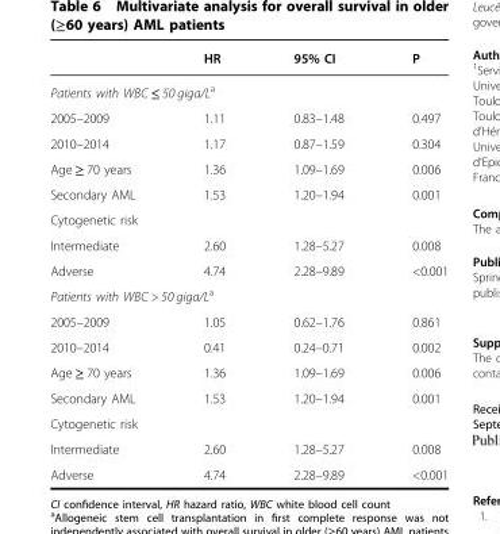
<table><thead><tr><td></td><td>HR</td><td>95% CI</td><td>P</td></tr></thead><tbody><tr><td colspan="4">Patients with WBC ≤ 50 giga/L<sup>a</sup></td></tr><tr><td>2005–2009</td><td>1.11</td><td>0.83–1.48</td><td>0.497</td></tr><tr><td>2010–2014</td><td>1.17</td><td>0.87–1.59</td><td>0.304</td></tr><tr><td>Age ≥ 70 years</td><td>1.36</td><td>1.09–1.69</td><td>0.006</td></tr><tr><td>Secondary AML</td><td>1.53</td><td>1.20–1.94</td><td>0.001</td></tr><tr><td colspan="4">Cytogenetic risk</td></tr><tr><td>Intermediate</td><td>2.60</td><td>1.28–5.27</td><td>0.008</td></tr><tr><td>Adverse</td><td>4.74</td><td>2.28–9.89</td><td>&lt;0.001</td></tr><tr><td colspan="4">Patients with WBC &gt; 50 giga/L<sup>a</sup></td></tr><tr><td>2005–2009</td><td>1.05</td><td>0.62–1.76</td><td>0.861</td></tr><tr><td>2010–2014</td><td>0.41</td><td>0.24–0.71</td><td>0.002</td></tr><tr><td>Age ≥ 70 years</td><td>1.36</td><td>1.09–1.69</td><td>0.006</td></tr><tr><td>Secondary AML</td><td>1.53</td><td>1.20–1.94</td><td>0.001</td></tr><tr><td colspan="4">Cytogenetic risk</td></tr><tr><td>Intermediate</td><td>2.60</td><td>1.28–5.27</td><td>0.008</td></tr><tr><td>Adverse</td><td>4.74</td><td>2.28–9.89</td><td>&lt;0.001</td></tr></tbody></table>